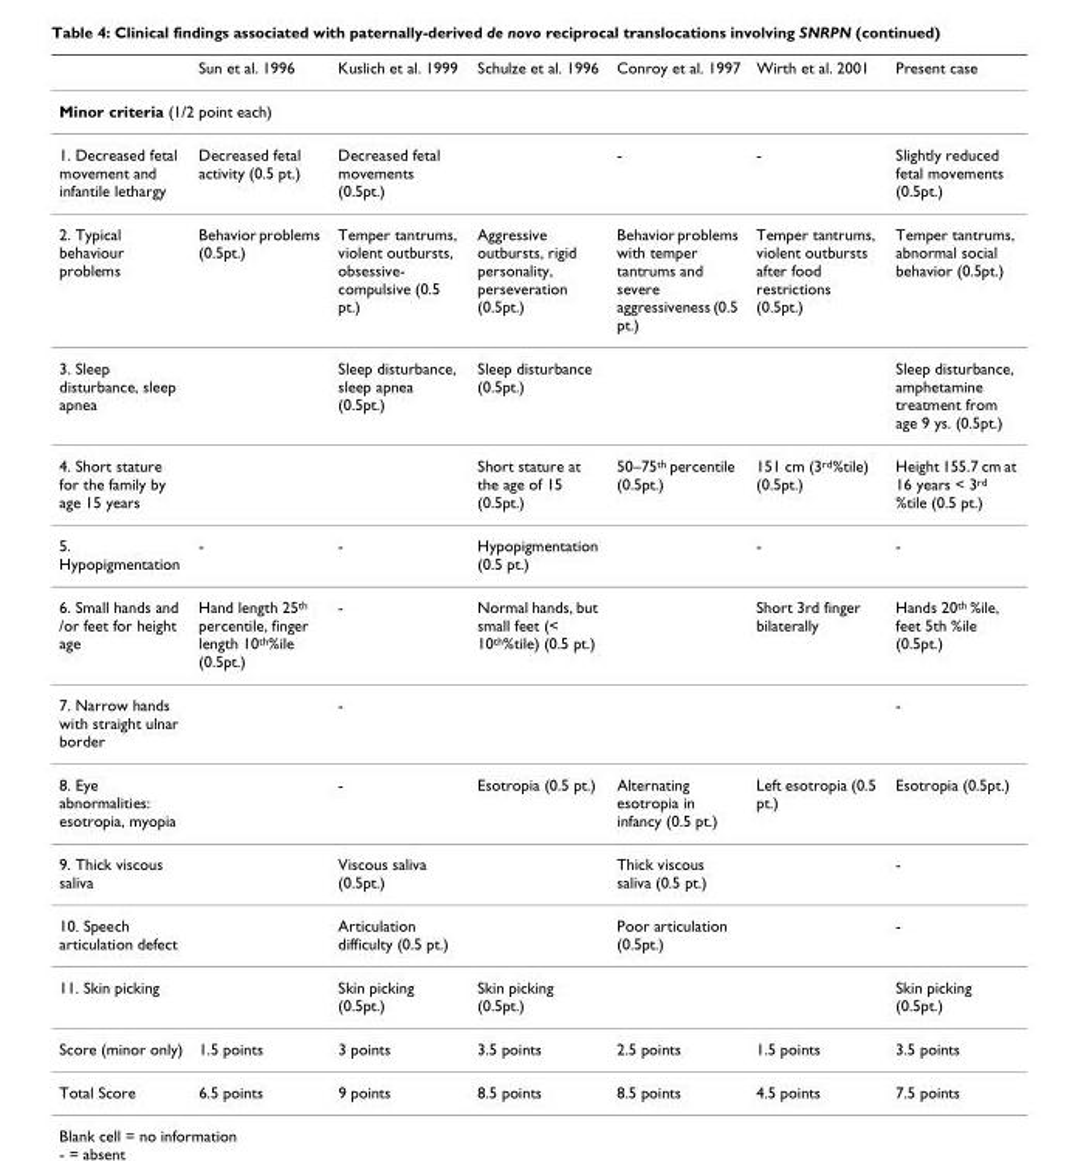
<table><thead><tr><td></td><td>Sun et al. 1996</td><td>Kuslich et al. 1999</td><td>Schulze et al. 1996</td><td>Conroy et al. 1997</td><td>Wirth et al. 2001</td><td>Present case</td></tr></thead><tbody><tr><td colspan="7">Minor criteria (1/2 point each)</td></tr><tr><td>1. Decreased fetal movement and infantile lethargy</td><td>Decreased fetal activity (0.5 pt.)</td><td>Decreased fetal movements (0.5pt.)</td><td></td><td>-</td><td>-</td><td>Slightly reduced fetal movements (0.5pt.)</td></tr><tr><td>2. Typical behaviour problems</td><td>Behavior problems (0.5pt.)</td><td>Temper tantrums, violent outbursts, obsessive- compulsive (0.5 pt.)</td><td>Aggressive outbursts, rigid personality, perseveration (0.5pt.)</td><td>Behavior problems with temper tantrums and severe aggressiveness (0.5 pt.)</td><td>Temper tantrums, violent outbursts after food restrictions (0.5pt.)</td><td>Temper tantrums, abnormal social behavior (0.5pt.)</td></tr><tr><td>3. Sleep disturbance, sleep apnea</td><td></td><td>Sleep disturbance, sleep apnea (0.5pt.)</td><td>Sleep disturbance (0.5pt.)</td><td></td><td></td><td>Sleep disturbance, amphetamine treatment from age 9 ys. (0.5pt.)</td></tr><tr><td>4. Short stature for the family by age 15 years</td><td></td><td></td><td>Short stature at the age of 15 (0.5pt.)</td><td>50–75th percentile (0.5pt.)</td><td>151 cm (3rd%tile) (0.5pt.)</td><td>Height 155.7 cm at 16 years &lt; 3rd %tile (0.5 pt.)</td></tr><tr><td>5. Hypopigmentation</td><td>-</td><td>-</td><td>Hypopigmentation (0.5 pt.)</td><td></td><td>-</td><td>-</td></tr><tr><td>6. Small hands and /or feet for height age</td><td>Hand length 25th percentile, finger length 10th%ile (0.5pt.)</td><td>-</td><td>Normal hands, but small feet (&lt; 10th%tile) (0.5 pt.)</td><td></td><td>Short 3rd finger bilaterally</td><td>Hands 20th %ile, feet 5th %ile (0.5pt.)</td></tr><tr><td>7. Narrow hands with straight ulnar border</td><td></td><td>-</td><td></td><td></td><td></td><td>-</td></tr><tr><td>8. Eye abnormalities: esotropia, myopia</td><td></td><td>-</td><td>Esotropia (0.5 pt.)</td><td>Alternating esotropia in infancy (0.5 pt.)</td><td>Left esotropia (0.5 pt.)</td><td>Esotropia (0.5pt.)</td></tr><tr><td>9. Thick viscous saliva</td><td></td><td>Viscous saliva (0.5pt.)</td><td></td><td>Thick viscous saliva (0.5 pt.)</td><td></td><td>-</td></tr><tr><td>10. Speech articulation defect</td><td></td><td>Articulation difficulty (0.5 pt.)</td><td></td><td>Poor articulation (0.5pt.)</td><td></td><td>-</td></tr><tr><td>11. Skin picking</td><td></td><td>Skin picking (0.5pt.)</td><td>Skin picking (0.5pt.)</td><td></td><td></td><td>Skin picking (0.5pt.)</td></tr><tr><td>Score (minor only)</td><td>1.5 points</td><td>3 points</td><td>3.5 points</td><td>2.5 points</td><td>1.5 points</td><td>3.5 points</td></tr><tr><td>Total Score</td><td>6.5 points</td><td>9 points</td><td>8.5 points</td><td>8.5 points</td><td>4.5 points</td><td>7.5 points</td></tr></tbody></table>